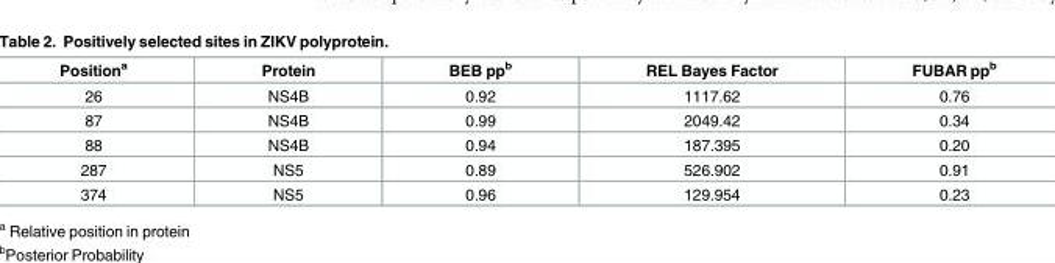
<table><thead><tr><td>Position<sup>a</sup></td><td>Protein</td><td>BEB pp<sup>b</sup></td><td>REL Bayes Factor</td><td>FUBAR pp<sup>b</sup></td></tr></thead><tbody><tr><td>26</td><td>NS4B</td><td>0.92</td><td>1117.62</td><td>0.76</td></tr><tr><td>87</td><td>NS4B</td><td>0.99</td><td>2049.42</td><td>0.34</td></tr><tr><td>88</td><td>NS4B</td><td>0.94</td><td>187.395</td><td>0.20</td></tr><tr><td>287</td><td>NS5</td><td>0.89</td><td>526.902</td><td>0.91</td></tr><tr><td>374</td><td>NS5</td><td>0.96</td><td>129.954</td><td>0.23</td></tr></tbody></table>